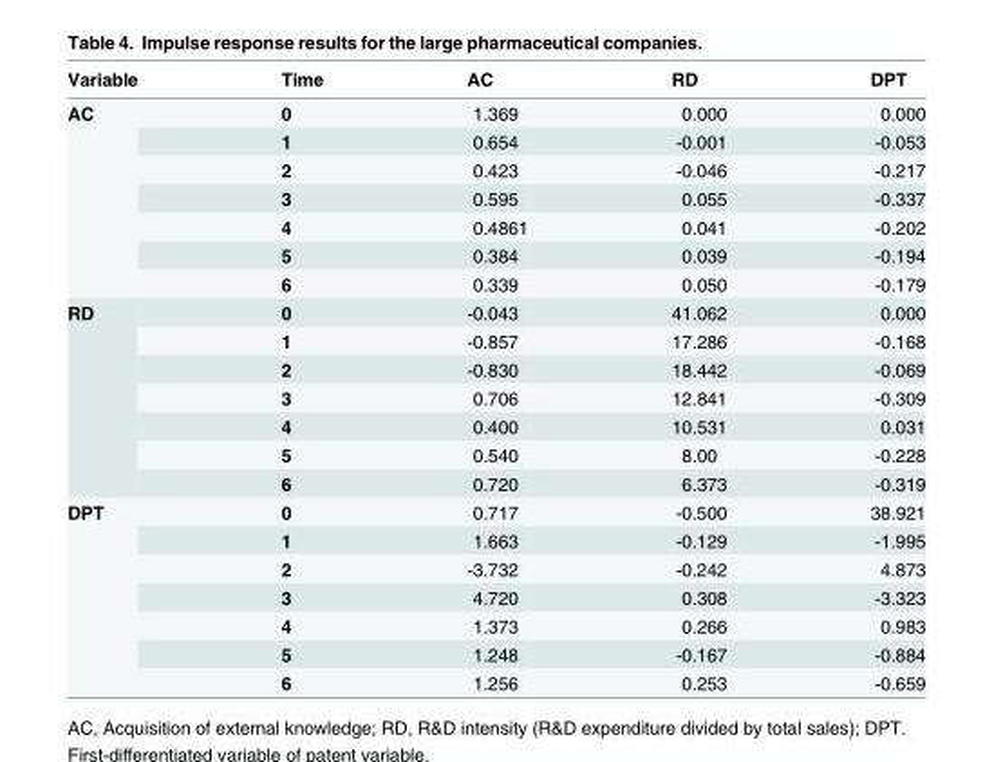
<table><thead><tr><td>Variable</td><td>Time</td><td>AC</td><td>RD</td><td>DPT</td></tr></thead><tbody><tr><td rowspan="7">AC</td><td>0</td><td>1.369</td><td>0.000</td><td>0.000</td></tr><tr><td>1</td><td>0.654</td><td>-0.001</td><td>-0.053</td></tr><tr><td>2</td><td>0.423</td><td>-0.046</td><td>-0.217</td></tr><tr><td>3</td><td>0.595</td><td>0.055</td><td>-0.337</td></tr><tr><td>4</td><td>0.4861</td><td>0.041</td><td>-0.202</td></tr><tr><td>5</td><td>0.384</td><td>0.039</td><td>-0.194</td></tr><tr><td>6</td><td>0.339</td><td>0.050</td><td>-0.179</td></tr><tr><td rowspan="7">RD</td><td>0</td><td>-0.043</td><td>41.062</td><td>0.000</td></tr><tr><td>1</td><td>-0.857</td><td>17.286</td><td>-0.168</td></tr><tr><td>2</td><td>-0.830</td><td>18.442</td><td>-0.069</td></tr><tr><td>3</td><td>0.706</td><td>12.841</td><td>-0.309</td></tr><tr><td>4</td><td>0.400</td><td>10.531</td><td>0.031</td></tr><tr><td>5</td><td>0.540</td><td>8.00</td><td>-0.228</td></tr><tr><td>6</td><td>0.720</td><td>6.373</td><td>-0.319</td></tr><tr><td rowspan="7">DPT</td><td>0</td><td>0.717</td><td>-0.500</td><td>38.921</td></tr><tr><td>1</td><td>1.663</td><td>-0.129</td><td>-1.995</td></tr><tr><td>2</td><td>-3.732</td><td>-0.242</td><td>4.873</td></tr><tr><td>3</td><td>4.720</td><td>0.308</td><td>-3.323</td></tr><tr><td>4</td><td>1.373</td><td>0.266</td><td>0.983</td></tr><tr><td>5</td><td>1.248</td><td>-0.167</td><td>-0.884</td></tr><tr><td>6</td><td>1.256</td><td>0.253</td><td>-0.659</td></tr></tbody></table>